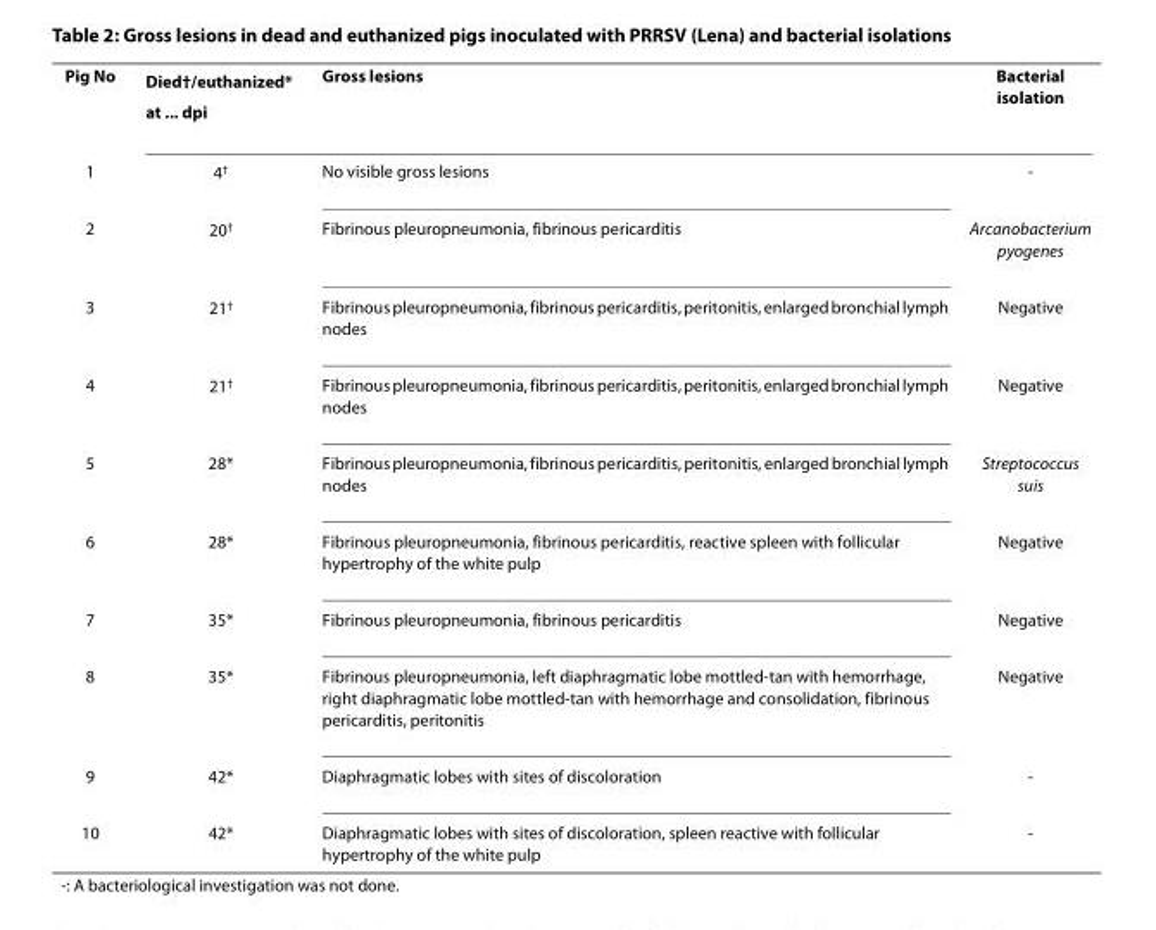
<table><tbody><tr><td>Pig No</td><td>Died<sup>†</sup>/euthanized* at ... dpi</td><td>Gross lesions</td><td>Bacterial isolation</td></tr><tr><td>1</td><td>4<sup>†</sup></td><td>No visible gross lesions</td><td>-</td></tr><tr><td>2</td><td>20<sup>†</sup></td><td>Fibrinous pleuropneumonia, fibrinous pericarditis</td><td>Arcanobacterium pyogenes</td></tr><tr><td>3</td><td>21<sup>†</sup></td><td>Fibrinous pleuropneumonia, fibrinous pericarditis, peritonitis, enlarged bronchial lymph nodes</td><td>Negative</td></tr><tr><td>4</td><td>21<sup>†</sup></td><td>Fibrinous pleuropneumonia, fibrinous pericarditis, peritonitis, enlarged bronchial lymph nodes</td><td>Negative</td></tr><tr><td>5</td><td>28*</td><td>Fibrinous pleuropneumonia, fibrinous pericarditis, peritonitis, enlarged bronchial lymph nodes</td><td>Streptococcus suis</td></tr><tr><td>6</td><td>28*</td><td>Fibrinous pleuropneumonia, fibrinous pericarditis, reactive spleen with follicular hypertrophy of the white pulp</td><td>Negative</td></tr><tr><td>7</td><td>35*</td><td>Fibrinous pleuropneumonia, fibrinous pericarditis</td><td>Negative</td></tr><tr><td>8</td><td>35*</td><td>Fibrinous pleuropneumonia, left diaphragmatic lobe mottled-tan with hemorrhage, right diaphragmatic lobe mottled-tan with hemorrhage and consolidation, fibrinous pericarditis, peritonitis</td><td>Negative</td></tr><tr><td>9</td><td>42*</td><td>Diaphragmatic lobes with sites of discoloration</td><td>-</td></tr><tr><td>10</td><td>42*</td><td>Diaphragmatic lobes with sites of discoloration, spleen reactive with follicular hypertrophy of the white pulp</td><td>-</td></tr></tbody></table>